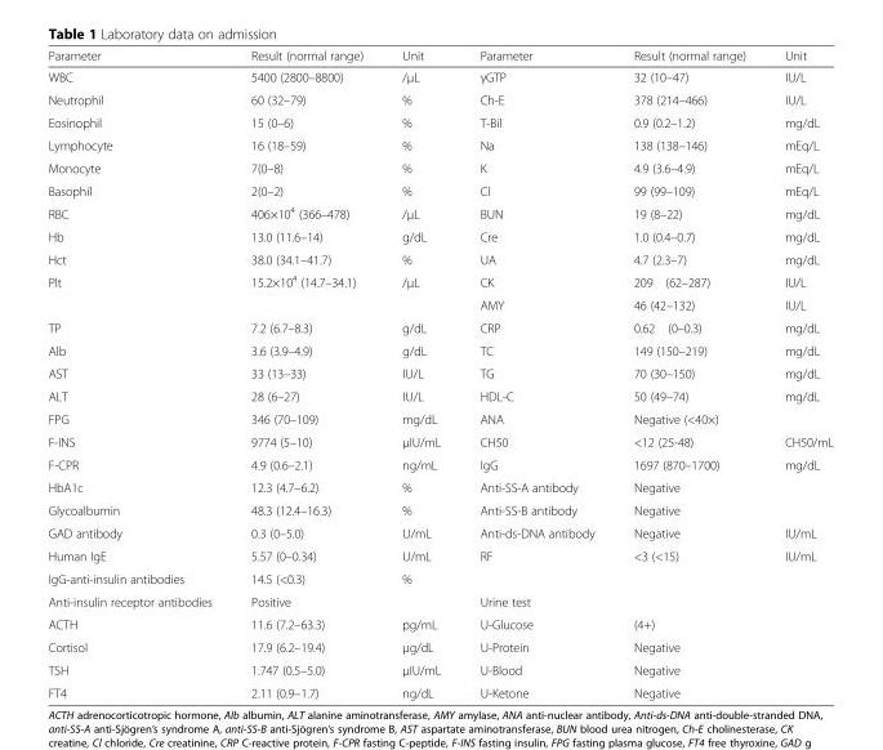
<table><thead><tr><td>Parameter</td><td>Result (normal range)</td><td>Unit</td><td>Parameter</td><td>Result (normal range)</td><td>Unit</td></tr></thead><tbody><tr><td>WBC</td><td>5400 (2800–8800)</td><td>/μL</td><td>γGTP</td><td>32 (10–47)</td><td>IU/L</td></tr><tr><td>Neutrophil</td><td>60 (32–79)</td><td>%</td><td>Ch-E</td><td>378 (214–466)</td><td>IU/L</td></tr><tr><td>Eosinophil</td><td>15 (0–6)</td><td>%</td><td>T-Bil</td><td>0.9 (0.2–1.2)</td><td>mg/dL</td></tr><tr><td>Lymphocyte</td><td>16 (18–59)</td><td>%</td><td>Na</td><td>138 (138–146)</td><td>mEq/L</td></tr><tr><td>Monocyte</td><td>7(0–8)</td><td>%</td><td>K</td><td>4.9 (3.6–4.9)</td><td>mEq/L</td></tr><tr><td>Basophil</td><td>2(0–2)</td><td>%</td><td>Cl</td><td>99 (99–109)</td><td>mEq/L</td></tr><tr><td>RBC</td><td>406×10<sup>4</sup> (366–478)</td><td>/μL</td><td>BUN</td><td>19 (8–22)</td><td>mg/dL</td></tr><tr><td>Hb</td><td>13.0 (11.6–14)</td><td>g/dL</td><td>Cre</td><td>1.0 (0.4–0.7)</td><td>mg/dL</td></tr><tr><td>Hct</td><td>38.0 (34.1–41.7)</td><td>%</td><td>UA</td><td>4.7 (2.3–7)</td><td>mg/dL</td></tr><tr><td rowspan="2">Plt</td><td>15.2×10<sup>4</sup> (14.7–34.1)</td><td>/μL</td><td>CK</td><td>209 (62–287)</td><td>IU/L</td></tr><tr><td></td><td></td><td>AMY</td><td>46 (42–132)</td><td>IU/L</td></tr><tr><td>TP</td><td>7.2 (6.7–8.3)</td><td>g/dL</td><td>CRP</td><td>0.62 (0–0.3)</td><td>mg/dL</td></tr><tr><td>Alb</td><td>3.6 (3.9–4.9)</td><td>g/dL</td><td>TC</td><td>149 (150–219)</td><td>mg/dL</td></tr><tr><td>AST</td><td>33 (13–33)</td><td>IU/L</td><td>TG</td><td>70 (30–150)</td><td>mg/dL</td></tr><tr><td>ALT</td><td>28 (6–27)</td><td>IU/L</td><td>HDL-C</td><td>50 (49–74)</td><td>mg/dL</td></tr><tr><td>FPG</td><td>346 (70–109)</td><td>mg/dL</td><td>ANA</td><td>Negative (&lt;40×)</td><td></td></tr><tr><td>F-INS</td><td>9774 (5–10)</td><td>μIU/mL</td><td>CH50</td><td>&lt;12 (25-48)</td><td>CH50/mL</td></tr><tr><td>F-CPR</td><td>4.9 (0.6–2.1)</td><td>ng/mL</td><td>IgG</td><td>1697 (870–1700)</td><td>mg/dL</td></tr><tr><td>HbA1c</td><td>12.3 (4.7–6.2)</td><td>%</td><td>Anti-SS-A antibody</td><td>Negative</td><td></td></tr><tr><td>Glycoalbumin</td><td>48.3 (12.4–16.3)</td><td>%</td><td>Anti-SS-B antibody</td><td>Negative</td><td></td></tr><tr><td>GAD antibody</td><td>0.3 (0–5.0)</td><td>U/mL</td><td>Anti-ds-DNA antibody</td><td>Negative</td><td>IU/mL</td></tr><tr><td>Human IgE</td><td>5.57 (0–0.34)</td><td>U/mL</td><td>RF</td><td>&lt;3 (&lt;15)</td><td>IU/mL</td></tr><tr><td>IgG-anti-insulin antibodies</td><td>14.5 (&lt;0.3)</td><td>%</td><td></td><td></td><td></td></tr><tr><td>Anti-insulin receptor antibodies</td><td>Positive</td><td></td><td colspan="2">Urine test</td><td></td></tr><tr><td>ACTH</td><td>11.6 (7.2–63.3)</td><td>pg/mL</td><td>U-Glucose</td><td>(4+)</td><td></td></tr><tr><td>Cortisol</td><td>17.9 (6.2–19.4)</td><td>μg/dL</td><td>U-Protein</td><td>Negative</td><td></td></tr><tr><td>TSH</td><td>1.747 (0.5–5.0)</td><td>μIU/mL</td><td>U-Blood</td><td>Negative</td><td></td></tr><tr><td>FT4</td><td>2.11 (0.9–1.7)</td><td>ng/dL</td><td>U-Ketone</td><td>Negative</td><td></td></tr></tbody></table>